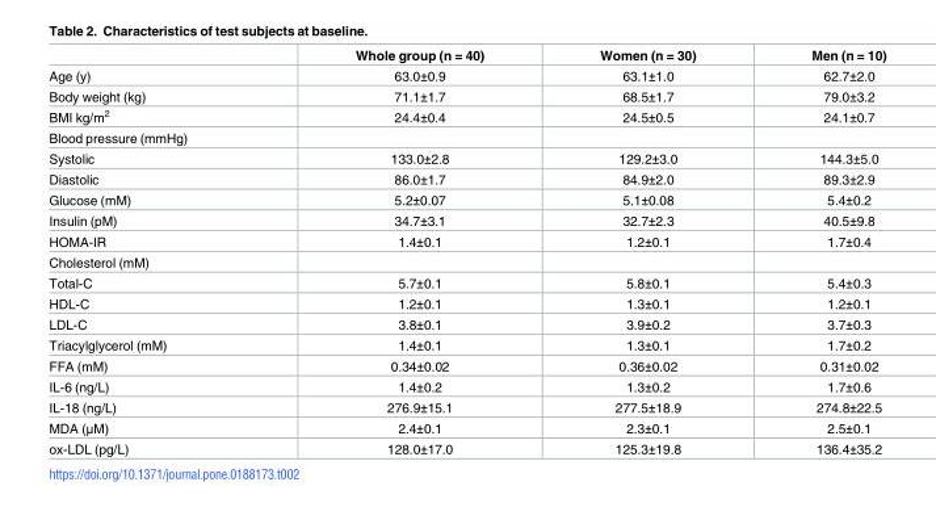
<table><thead><tr><td></td><td>Whole group (n = 40)</td><td>Women (n = 30)</td><td>Men (n = 10)</td></tr></thead><tbody><tr><td>Age (y)</td><td>63.0±0.9</td><td>63.1±1.0</td><td>62.7±2.0</td></tr><tr><td>Body weight (kg)</td><td>71.1±1.7</td><td>68.5±1.7</td><td>79.0±3.2</td></tr><tr><td>BMI kg/m<sup>2</sup></td><td>24.4±0.4</td><td>24.5±0.5</td><td>24.1±0.7</td></tr><tr><td colspan="4">Blood pressure (mmHg)</td></tr><tr><td>Systolic</td><td>133.0±2.8</td><td>129.2±3.0</td><td>144.3±5.0</td></tr><tr><td>Diastolic</td><td>86.0±1.7</td><td>84.9±2.0</td><td>89.3±2.9</td></tr><tr><td>Glucose (mM)</td><td>5.2±0.07</td><td>5.1±0.08</td><td>5.4±0.2</td></tr><tr><td>Insulin (pM)</td><td>34.7±3.1</td><td>32.7±2.3</td><td>40.5±9.8</td></tr><tr><td>HOMA-IR</td><td>1.4±0.1</td><td>1.2±0.1</td><td>1.7±0.4</td></tr><tr><td colspan="4">Cholesterol (mM)</td></tr><tr><td>Total-C</td><td>5.7±0.1</td><td>5.8±0.1</td><td>5.4±0.3</td></tr><tr><td>HDL-C</td><td>1.2±0.1</td><td>1.3±0.1</td><td>1.2±0.1</td></tr><tr><td>LDL-C</td><td>3.8±0.1</td><td>3.9±0.2</td><td>3.7±0.3</td></tr><tr><td>Triacylglycerol (mM)</td><td>1.4±0.1</td><td>1.3±0.1</td><td>1.7±0.2</td></tr><tr><td>FFA (mM)</td><td>0.34±0.02</td><td>0.36±0.02</td><td>0.31±0.02</td></tr><tr><td>IL-6 (ng/L)</td><td>1.4±0.2</td><td>1.3±0.2</td><td>1.7±0.6</td></tr><tr><td>IL-18 (ng/L)</td><td>276.9±15.1</td><td>277.5±18.9</td><td>274.8±22.5</td></tr><tr><td>MDA (μM)</td><td>2.4±0.1</td><td>2.3±0.1</td><td>2.5±0.1</td></tr><tr><td>ox-LDL (pg/L)</td><td>128.0±17.0</td><td>125.3±19.8</td><td>136.4±35.2</td></tr></tbody></table>